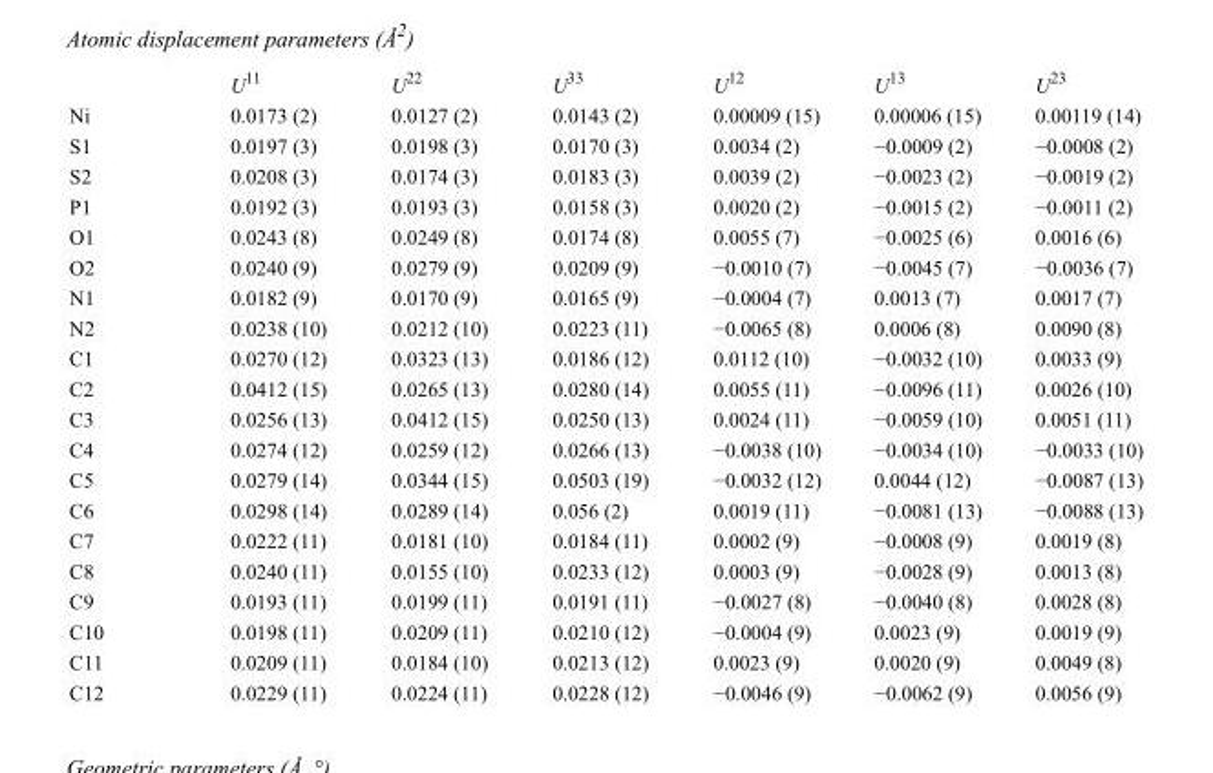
<table><thead><tr><td></td><td>U<sup>11</sup></td><td>U<sup>22</sup></td><td>U<sup>33</sup></td><td>U<sup>12</sup></td><td>U<sup>13</sup></td><td>U<sup>23</sup></td></tr></thead><tbody><tr><td>Ni</td><td>0.0173 (2)</td><td>0.0127 (2)</td><td>0.0143 (2)</td><td>0.00009 (15)</td><td>0.00006 (15)</td><td>0.00119 (14)</td></tr><tr><td>S1</td><td>0.0197 (3)</td><td>0.0198 (3)</td><td>0.0170 (3)</td><td>0.0034 (2)</td><td>−0.0009 (2)</td><td>−0.0008 (2)</td></tr><tr><td>S2</td><td>0.0208 (3)</td><td>0.0174 (3)</td><td>0.0183 (3)</td><td>0.0039 (2)</td><td>−0.0023 (2)</td><td>−0.0019 (2)</td></tr><tr><td>P1</td><td>0.0192 (3)</td><td>0.0193 (3)</td><td>0.0158 (3)</td><td>0.0020 (2)</td><td>−0.0015 (2)</td><td>−0.0011 (2)</td></tr><tr><td>O1</td><td>0.0243 (8)</td><td>0.0249 (8)</td><td>0.0174 (8)</td><td>0.0055 (7)</td><td>−0.0025 (6)</td><td>0.0016 (6)</td></tr><tr><td>O2</td><td>0.0240 (9)</td><td>0.0279 (9)</td><td>0.0209 (9)</td><td>−0.0010 (7)</td><td>−0.0045 (7)</td><td>−0.0036 (7)</td></tr><tr><td>N1</td><td>0.0182 (9)</td><td>0.0170 (9)</td><td>0.0165 (9)</td><td>−0.0004 (7)</td><td>0.0013 (7)</td><td>0.0017 (7)</td></tr><tr><td>N2</td><td>0.0238 (10)</td><td>0.0212 (10)</td><td>0.0223 (11)</td><td>−0.0065 (8)</td><td>0.0006 (8)</td><td>0.0090 (8)</td></tr><tr><td>C1</td><td>0.0270 (12)</td><td>0.0323 (13)</td><td>0.0186 (12)</td><td>0.0112 (10)</td><td>−0.0032 (10)</td><td>0.0033 (9)</td></tr><tr><td>C2</td><td>0.0412 (15)</td><td>0.0265 (13)</td><td>0.0280 (14)</td><td>0.0055 (11)</td><td>−0.0096 (11)</td><td>0.0026 (10)</td></tr><tr><td>C3</td><td>0.0256 (13)</td><td>0.0412 (15)</td><td>0.0250 (13)</td><td>0.0024 (11)</td><td>−0.0059 (10)</td><td>0.0051 (11)</td></tr><tr><td>C4</td><td>0.0274 (12)</td><td>0.0259 (12)</td><td>0.0266 (13)</td><td>−0.0038 (10)</td><td>−0.0034 (10)</td><td>−0.0033 (10)</td></tr><tr><td>C5</td><td>0.0279 (14)</td><td>0.0344 (15)</td><td>0.0503 (19)</td><td>−0.0032 (12)</td><td>0.0044 (12)</td><td>−0.0087 (13)</td></tr><tr><td>C6</td><td>0.0298 (14)</td><td>0.0289 (14)</td><td>0.056 (2)</td><td>0.0019 (11)</td><td>−0.0081 (13)</td><td>−0.0088 (13)</td></tr><tr><td>C7</td><td>0.0222 (11)</td><td>0.0181 (10)</td><td>0.0184 (11)</td><td>0.0002 (9)</td><td>−0.0008 (9)</td><td>0.0019 (8)</td></tr><tr><td>C8</td><td>0.0240 (11)</td><td>0.0155 (10)</td><td>0.0233 (12)</td><td>0.0003 (9)</td><td>−0.0028 (9)</td><td>0.0013 (8)</td></tr><tr><td>C9</td><td>0.0193 (11)</td><td>0.0199 (11)</td><td>0.0191 (11)</td><td>−0.0027 (8)</td><td>−0.0040 (8)</td><td>0.0028 (8)</td></tr><tr><td>C10</td><td>0.0198 (11)</td><td>0.0209 (11)</td><td>0.0210 (12)</td><td>−0.0004 (9)</td><td>0.0023 (9)</td><td>0.0019 (9)</td></tr><tr><td>C11</td><td>0.0209 (11)</td><td>0.0184 (10)</td><td>0.0213 (12)</td><td>0.0023 (9)</td><td>0.0020 (9)</td><td>0.0049 (8)</td></tr><tr><td>C12</td><td>0.0229 (11)</td><td>0.0224 (11)</td><td>0.0228 (12)</td><td>−0.0046 (9)</td><td>−0.0062 (9)</td><td>0.0056 (9)</td></tr></tbody></table>